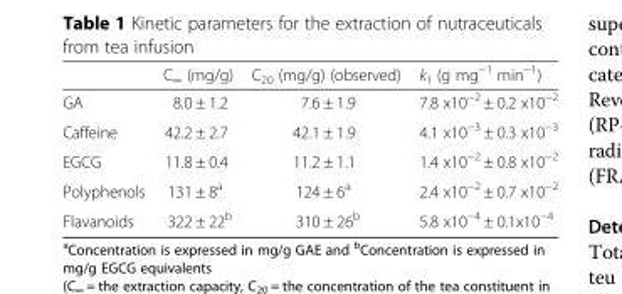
<table><thead><tr><td></td><td>C<sub>∞</sub> (mg/g)</td><td>C<sub>20</sub> (mg/g) (observed)</td><td>k<sub>1</sub> (g mg<sup>−1</sup> min<sup>−1</sup>)</td></tr></thead><tbody><tr><td>GA</td><td>8.0 ± 1.2</td><td>7.6 ± 1.9</td><td>7.8 x10<sup>−2</sup> ± 0.2 x10<sup>−2</sup></td></tr><tr><td>Caffeine</td><td>42.2 ± 2.7</td><td>42.1 ± 1.9</td><td>4.1 x10<sup>−3</sup> ± 0.3 x10<sup>−3</sup></td></tr><tr><td>EGCG</td><td>11.8 ± 0.4</td><td>11.2 ± 1.1</td><td>1.4 x10<sup>−2</sup> ± 0.8 x10<sup>−2</sup></td></tr><tr><td>Polyphenols</td><td>131 ± 8<sup>a</sup></td><td>124 ± 6<sup>a</sup></td><td>2.4 x10<sup>−2</sup> ± 0.7 x10<sup>−2</sup></td></tr><tr><td>Flavanoids</td><td>322 ± 22<sup>b</sup></td><td>310 ± 26<sup>b</sup></td><td>5.8 x10<sup>−4</sup> ± 0.1x10<sup>−4</sup></td></tr></tbody></table>